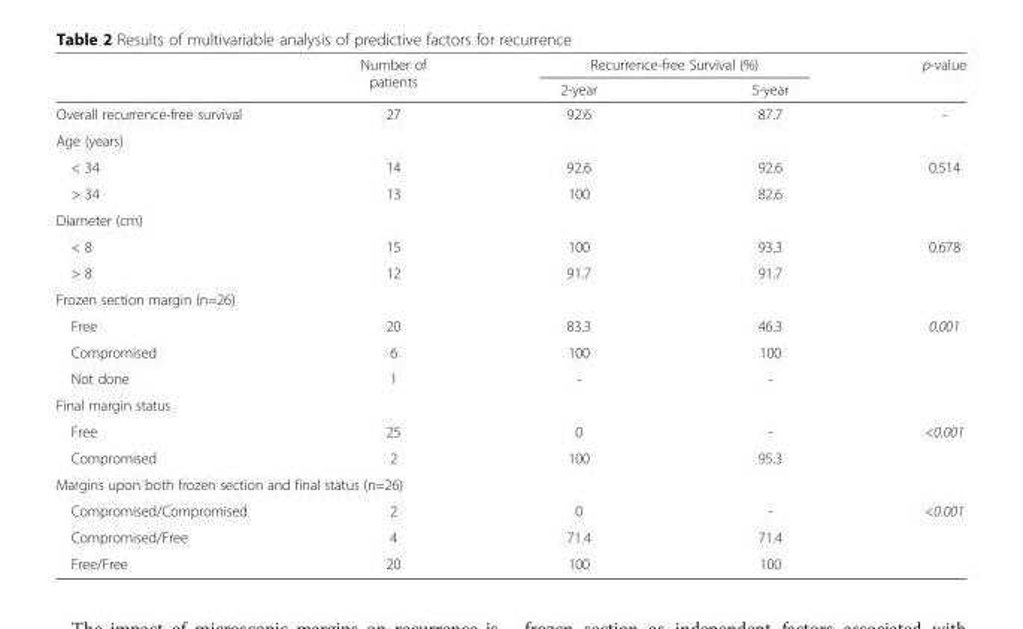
<table><thead><tr><td rowspan="2"></td><td rowspan="2">Number of patients</td><td colspan="2">Recurrence-free Survival (%)</td><td rowspan="2">p-value</td></tr><tr><td>2-year</td><td>5-year</td></tr></thead><tbody><tr><td>Overall recurrence-free survival</td><td>27</td><td>92.6</td><td>87.7</td><td>-</td></tr><tr><td colspan="5">Age (years)</td></tr><tr><td>&lt; 34</td><td>14</td><td>92.6</td><td>92.6</td><td rowspan="2">0.514</td></tr><tr><td>&gt; 34</td><td>13</td><td>100</td><td>82.6</td></tr><tr><td colspan="5">Diameter (cm)</td></tr><tr><td>&lt; 8</td><td>15</td><td>100</td><td>93.3</td><td rowspan="2">0.678</td></tr><tr><td>&gt; 8</td><td>12</td><td>91.7</td><td>91.7</td></tr><tr><td colspan="5">Frozen section margin (n=26)</td></tr><tr><td>Free</td><td>20</td><td>83.3</td><td>46.3</td><td rowspan="3">0.001</td></tr><tr><td>Compromised</td><td>6</td><td>100</td><td>100</td></tr><tr><td>Not done</td><td>1</td><td>-</td><td>-</td></tr><tr><td colspan="5">Final margin status</td></tr><tr><td>Free</td><td>25</td><td>0</td><td>-</td><td rowspan="2">&lt;0.001</td></tr><tr><td>Compromised</td><td>2</td><td>100</td><td>95.3</td></tr><tr><td colspan="5">Margins upon both frozen section and final status (n=26)</td></tr><tr><td>Compromised/Compromised</td><td>2</td><td>0</td><td>-</td><td rowspan="3">&lt;0.001</td></tr><tr><td>Compromised/Free</td><td>4</td><td>71.4</td><td>71.4</td></tr><tr><td>Free/Free</td><td>20</td><td>100</td><td>100</td></tr></tbody></table>